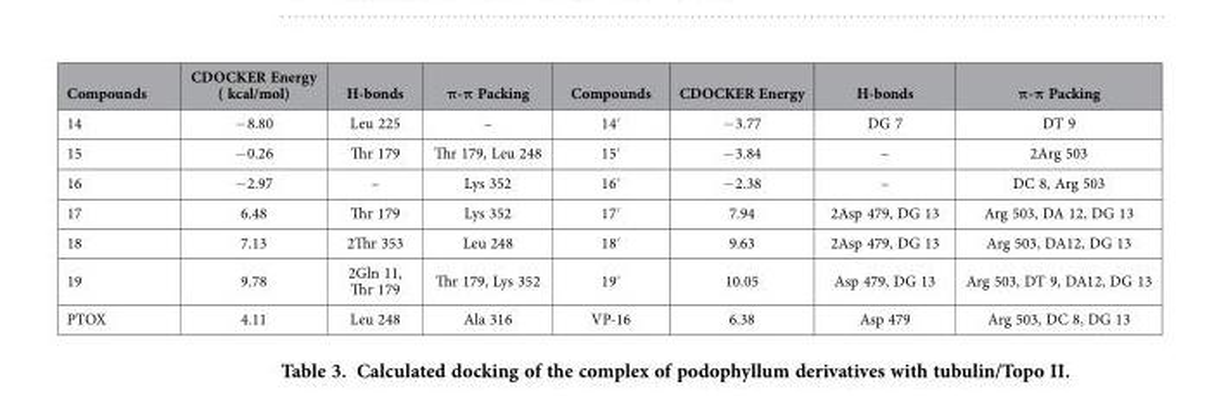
<table><thead><tr><td>Compounds</td><td>CDOCKER Energy ( kcal/mol)</td><td>H-bonds</td><td>π-π Packing</td><td>Compounds</td><td>CDOCKER Energy</td><td>H-bonds</td><td>π-π Packing</td></tr></thead><tbody><tr><td>14</td><td>− 8.80</td><td>Leu 225</td><td>–</td><td>14′</td><td>− 3.77</td><td>DG 7</td><td>DT 9</td></tr><tr><td>15</td><td>− 0.26</td><td>Thr 179</td><td>Thr 179, Leu 248</td><td>15′</td><td>− 3.84</td><td>–</td><td>2Arg 503</td></tr><tr><td>16</td><td>− 2.97</td><td>–</td><td>Lys 352</td><td>16′</td><td>− 2.38</td><td>–</td><td>DC 8, Arg 503</td></tr><tr><td>17</td><td>6.48</td><td>Thr 179</td><td>Lys 352</td><td>17′</td><td>7.94</td><td>2Asp 479, DG 13</td><td>Arg 503, DA 12, DG 13</td></tr><tr><td>18</td><td>7.13</td><td>2Thr 353</td><td>Leu 248</td><td>18′</td><td>9.63</td><td>2Asp 479, DG 13</td><td>Arg 503, DA12, DG 13</td></tr><tr><td>19</td><td>9.78</td><td>2Gln 11, Thr 179</td><td>Thr 179, Lys 352</td><td>19′</td><td>10.05</td><td>Asp 479, DG 13</td><td>Arg 503, DT 9, DA12, DG 13</td></tr><tr><td>PTOX</td><td>4.11</td><td>Leu 248</td><td>Ala 316</td><td>VP-16</td><td>6.38</td><td>Asp 479</td><td>Arg 503, DC 8, DG 13</td></tr></tbody></table>